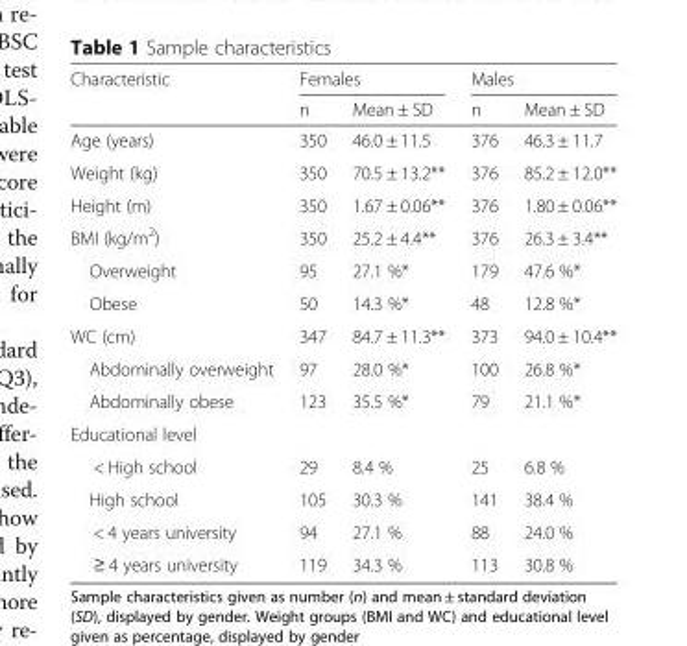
<table><thead><tr><td rowspan="2">Characteristic</td><td colspan="2">Females</td><td colspan="2">Males</td></tr><tr><td>n</td><td>Mean ± SD</td><td>n</td><td>Mean ± SD</td></tr></thead><tbody><tr><td>Age (years)</td><td>350</td><td>46.0 ± 11.5</td><td>376</td><td>46.3 ± 11.7</td></tr><tr><td>Weight (kg)</td><td>350</td><td>70.5 ± 13.2**</td><td>376</td><td>85.2 ± 12.0**</td></tr><tr><td>Height (m)</td><td>350</td><td>1.67 ± 0.06**</td><td>376</td><td>1.80 ± 0.06**</td></tr><tr><td>BMI (kg/m<sup>2</sup>)</td><td>350</td><td>25.2 ± 4.4**</td><td>376</td><td>26.3 ± 3.4**</td></tr><tr><td>Overweight</td><td>95</td><td>27.1 %*</td><td>179</td><td>47.6 %*</td></tr><tr><td>Obese</td><td>50</td><td>14.3 %*</td><td>48</td><td>12.8 %*</td></tr><tr><td>WC (cm)</td><td>347</td><td>84.7 ± 11.3**</td><td>373</td><td>94.0 ± 10.4**</td></tr><tr><td>Abdominally overweight</td><td>97</td><td>28.0 %*</td><td>100</td><td>26.8 %*</td></tr><tr><td>Abdominally obese</td><td>123</td><td>35.5 %*</td><td>79</td><td>21.1 %*</td></tr><tr><td colspan="5">Educational level</td></tr><tr><td>&lt; High school</td><td>29</td><td>8.4 %</td><td>25</td><td>6.8 %</td></tr><tr><td>High school</td><td>105</td><td>30.3 %</td><td>141</td><td>38.4 %</td></tr><tr><td>&lt; 4 years university</td><td>94</td><td>27.1 %</td><td>88</td><td>24.0 %</td></tr><tr><td>≥ 4 years university</td><td>119</td><td>34.3 %</td><td>113</td><td>30.8 %</td></tr></tbody></table>